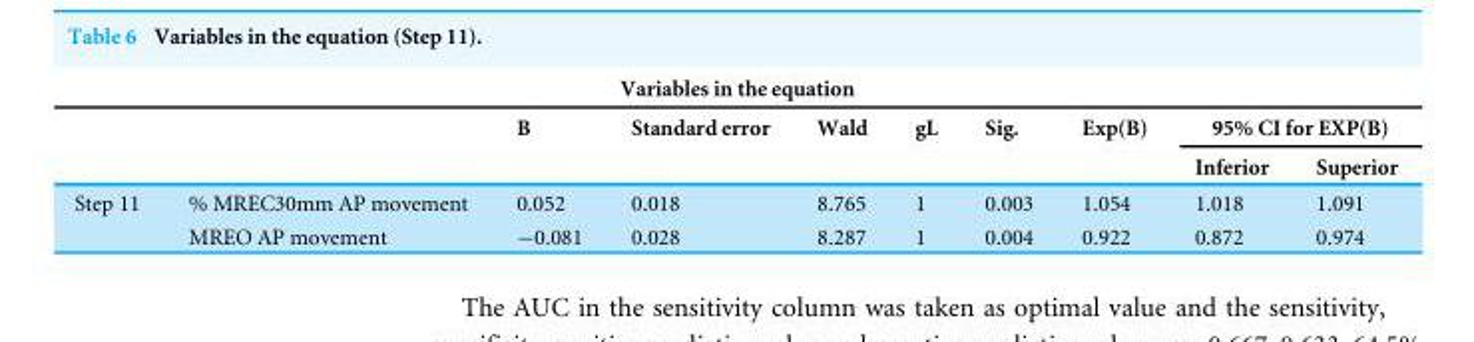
<table><thead><tr><td colspan="10">Variables in the equation</td></tr><tr><td rowspan="2"></td><td rowspan="2"></td><td rowspan="2">B</td><td rowspan="2">Standard error</td><td rowspan="2">Wald</td><td rowspan="2">gL</td><td rowspan="2">Sig.</td><td rowspan="2">Exp(B)</td><td colspan="2">95% CI for EXP(B)</td></tr><tr><td>Inferior</td><td>Superior</td></tr></thead><tbody><tr><td rowspan="2">Step 11</td><td>% MREC30mm AP movement</td><td>0.052</td><td>0.018</td><td>8.765</td><td>1</td><td>0.003</td><td>1.054</td><td>1.018</td><td>1.091</td></tr><tr><td>MREO AP movement</td><td>−0.081</td><td>0.028</td><td>8.287</td><td>1</td><td>0.004</td><td>0.922</td><td>0.872</td><td>0.974</td></tr></tbody></table>